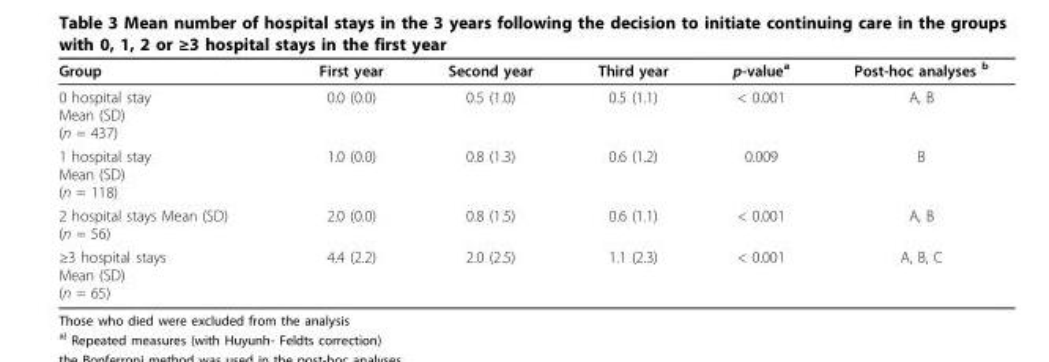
<table><thead><tr><td>Group</td><td>First year</td><td>Second year</td><td>Third year</td><td>p-value<sup>a</sup></td><td>Post-hoc analyses <sup>b</sup></td></tr></thead><tbody><tr><td>0 hospital stay Mean (SD) (n = 437)</td><td>0.0 (0.0)</td><td>0.5 (1.0)</td><td>0.5 (1.1)</td><td>&lt; 0.001</td><td>A, B</td></tr><tr><td>1 hospital stay Mean (SD) (n = 118)</td><td>1.0 (0.0)</td><td>0.8 (1.3)</td><td>0.6 (1.2)</td><td>0.009</td><td>B</td></tr><tr><td>2 hospital stays Mean (SD) (n = 56)</td><td>2.0 (0.0)</td><td>0.8 (1.5)</td><td>0.6 (1.1)</td><td>&lt; 0.001</td><td>A, B</td></tr><tr><td>≥3 hospital stays Mean (SD) (n = 65)</td><td>4.4 (2.2)</td><td>2.0 (2.5)</td><td>1.1 (2.3)</td><td>&lt; 0.001</td><td>A, B, C</td></tr></tbody></table>